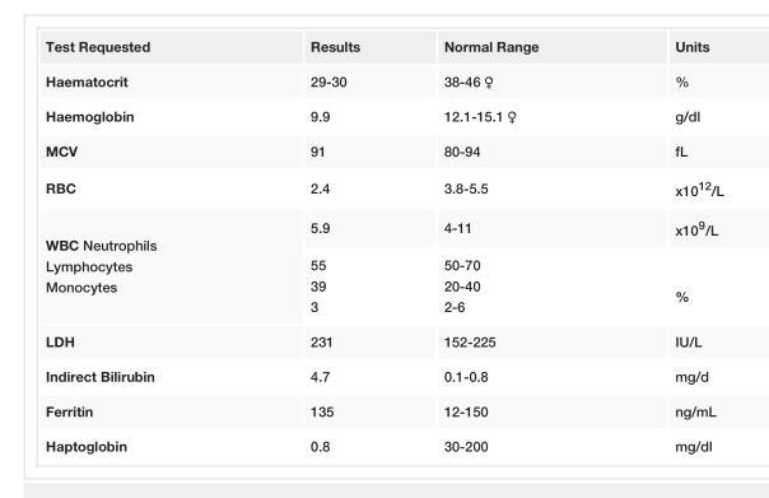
<table><tbody><tr><td>Test Requested</td><td>Results</td><td>Normal Range</td><td>Units</td></tr><tr><td>Haematocrit</td><td>29-30</td><td>38-46 ♀</td><td>%</td></tr><tr><td>Haemoglobin</td><td>9.9</td><td>12.1-15.1 ♀</td><td>g/dl</td></tr><tr><td>MCV</td><td>91</td><td>80-94</td><td>fL</td></tr><tr><td>RBC</td><td>2.4</td><td>3.8-5.5</td><td>x10<sup>12</sup>/L</td></tr><tr><td rowspan="2">WBC Neutrophils Lymphocytes Monocytes</td><td>5.9</td><td>4-11</td><td>x10<sup>9</sup>/L</td></tr><tr><td>55 39 3</td><td>50-70 20-40 2-6</td><td>%</td></tr><tr><td>LDH</td><td>231</td><td>152-225</td><td>IU/L</td></tr><tr><td>Indirect Bilirubin</td><td>4.7</td><td>0.1-0.8</td><td>mg/d</td></tr><tr><td>Ferritin</td><td>135</td><td>12-150</td><td>ng/mL</td></tr><tr><td>Haptoglobin</td><td>0.8</td><td>30-200</td><td>mg/dl</td></tr></tbody></table>